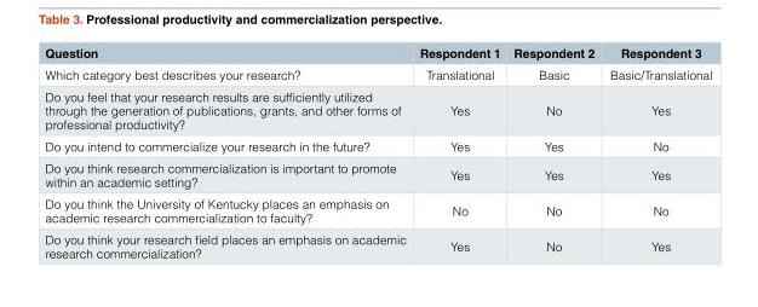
<table><thead><tr><td>Question</td><td>Respondent 1</td><td>Respondent 2</td><td>Respondent 3</td></tr></thead><tbody><tr><td>Which category best describes your research?</td><td>Translational</td><td>Basic</td><td>Basic/Translational</td></tr><tr><td>Do you feel that your research results are sufficiently utilized through the generation of publications, grants, and other forms of professional productivity?</td><td>Yes</td><td>No</td><td>Yes</td></tr><tr><td>Do you intend to commercialize your research in the future?</td><td>Yes</td><td>Yes</td><td>No</td></tr><tr><td>Do you think research commercialization is important to promote within an academic setting?</td><td>Yes</td><td>Yes</td><td>Yes</td></tr><tr><td>Do you think the University of Kentucky places an emphasis on academic research commercialization to faculty?</td><td>No</td><td>No</td><td>No</td></tr><tr><td>Do you think your research field places an emphasis on academic research commercialization?</td><td>Yes</td><td>No</td><td>Yes</td></tr></tbody></table>